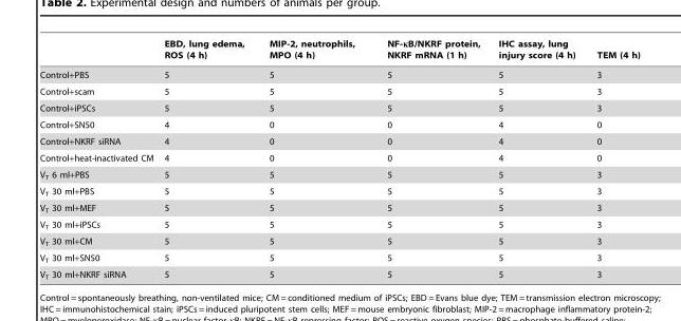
<table><thead><tr><td></td><td>EBD, lung edema, ROS (4 h)</td><td>MIP-2, neutrophils, MPO (4 h)</td><td>NF-κB/NKRF protein, NKRF mRNA (1 h)</td><td>IHC assay, lung injury score (4 h)</td><td>TEM (4 h)</td></tr></thead><tbody><tr><td>Control+PBS</td><td>5</td><td>5</td><td>5</td><td>5</td><td>3</td></tr><tr><td>Control+scam</td><td>5</td><td>5</td><td>5</td><td>5</td><td>3</td></tr><tr><td>Control+iPSCs</td><td>5</td><td>5</td><td>5</td><td>5</td><td>3</td></tr><tr><td>Control+SN50</td><td>4</td><td>0</td><td>0</td><td>4</td><td>0</td></tr><tr><td>Control+NKRF siRNA</td><td>4</td><td>0</td><td>0</td><td>4</td><td>0</td></tr><tr><td>Control+heat-inactivated CM</td><td>4</td><td>0</td><td>0</td><td>4</td><td>0</td></tr><tr><td>V<sub>T</sub> 6 ml+PBS</td><td>5</td><td>5</td><td>5</td><td>5</td><td>3</td></tr><tr><td>V<sub>T</sub> 30 ml+PBS</td><td>5</td><td>5</td><td>5</td><td>5</td><td>3</td></tr><tr><td>V<sub>T</sub> 30 ml+MEF</td><td>5</td><td>5</td><td>5</td><td>5</td><td>3</td></tr><tr><td>V<sub>T</sub> 30 ml+iPSCs</td><td>5</td><td>5</td><td>5</td><td>5</td><td>3</td></tr><tr><td>V<sub>T</sub> 30 ml+CM</td><td>5</td><td>5</td><td>5</td><td>5</td><td>3</td></tr><tr><td>V<sub>T</sub> 30 ml+SN50</td><td>5</td><td>5</td><td>5</td><td>5</td><td>3</td></tr><tr><td>V<sub>T</sub> 30 ml+NKRF siRNA</td><td>5</td><td>5</td><td>5</td><td>5</td><td>3</td></tr></tbody></table>